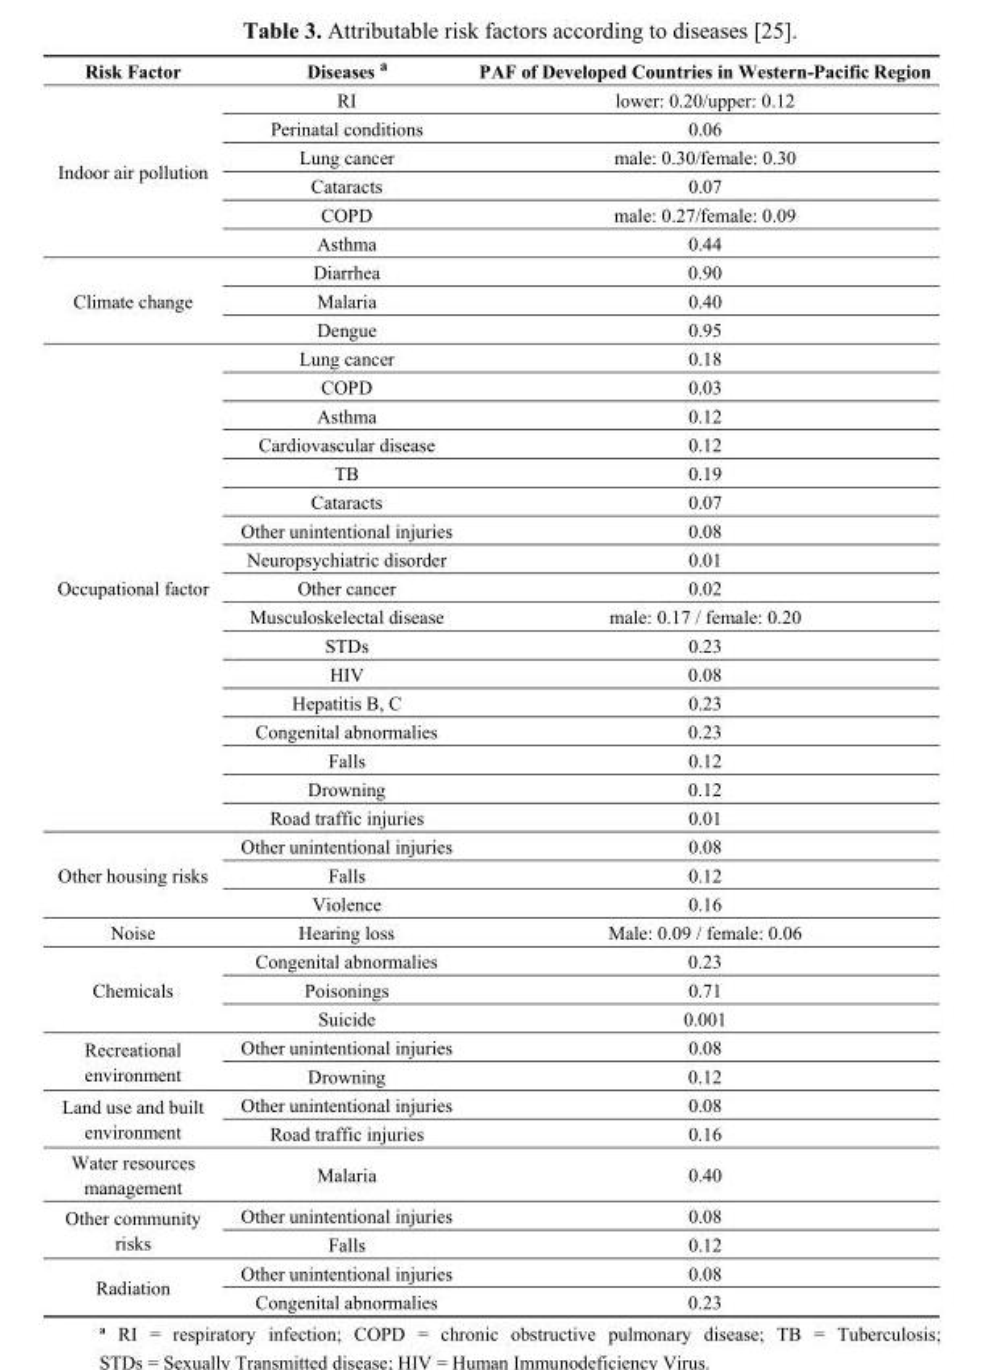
<table><thead><tr><td>Risk Factor</td><td>Diseases <sup>a</sup></td><td>PAF of Developed Countries in Western-Pacific Region</td></tr></thead><tbody><tr><td rowspan="6">Indoor air pollution</td><td>RI</td><td>lower: 0.20/upper: 0.12</td></tr><tr><td>Perinatal conditions</td><td>0.06</td></tr><tr><td>Lung cancer</td><td>male: 0.30/female: 0.30</td></tr><tr><td>Cataracts</td><td>0.07</td></tr><tr><td>COPD</td><td>male: 0.27/female: 0.09</td></tr><tr><td>Asthma</td><td>0.44</td></tr><tr><td rowspan="3">Climate change</td><td>Diarrhea</td><td>0.90</td></tr><tr><td>Malaria</td><td>0.40</td></tr><tr><td>Dengue</td><td>0.95</td></tr><tr><td rowspan="17">Occupational factor</td><td>Lung cancer</td><td>0.18</td></tr><tr><td>COPD</td><td>0.03</td></tr><tr><td>Asthma</td><td>0.12</td></tr><tr><td>Cardiovascular disease</td><td>0.12</td></tr><tr><td>TB</td><td>0.19</td></tr><tr><td>Cataracts</td><td>0.07</td></tr><tr><td>Other unintentional injuries</td><td>0.08</td></tr><tr><td>Neuropsychiatric disorder</td><td>0.01</td></tr><tr><td>Other cancer</td><td>0.02</td></tr><tr><td>Musculoskelectal disease</td><td>male: 0.17 / female: 0.20</td></tr><tr><td>STDs</td><td>0.23</td></tr><tr><td>HIV</td><td>0.08</td></tr><tr><td>Hepatitis B, C</td><td>0.23</td></tr><tr><td>Congenital abnormalies</td><td>0.23</td></tr><tr><td>Falls</td><td>0.12</td></tr><tr><td>Drowning</td><td>0.12</td></tr><tr><td>Road traffic injuries</td><td>0.01</td></tr><tr><td rowspan="3">Other housing risks</td><td>Other unintentional injuries</td><td>0.08</td></tr><tr><td>Falls</td><td>0.12</td></tr><tr><td>Violence</td><td>0.16</td></tr><tr><td>Noise</td><td>Hearing loss</td><td>Male: 0.09 / female: 0.06</td></tr><tr><td rowspan="3">Chemicals</td><td>Congenital abnormalies</td><td>0.23</td></tr><tr><td>Poisonings</td><td>0.71</td></tr><tr><td>Suicide</td><td>0.001</td></tr><tr><td rowspan="2">Recreational environment</td><td>Other unintentional injuries</td><td>0.08</td></tr><tr><td>Drowning</td><td>0.12</td></tr><tr><td rowspan="2">Land use and built environment</td><td>Other unintentional injuries</td><td>0.08</td></tr><tr><td>Road traffic injuries</td><td>0.16</td></tr><tr><td>Water resources management</td><td>Malaria</td><td>0.40</td></tr><tr><td rowspan="2">Other community risks</td><td>Other unintentional injuries</td><td>0.08</td></tr><tr><td>Falls</td><td>0.12</td></tr><tr><td rowspan="2">Radiation</td><td>Other unintentional injuries</td><td>0.08</td></tr><tr><td>Congenital abnormalies</td><td>0.23</td></tr></tbody></table>